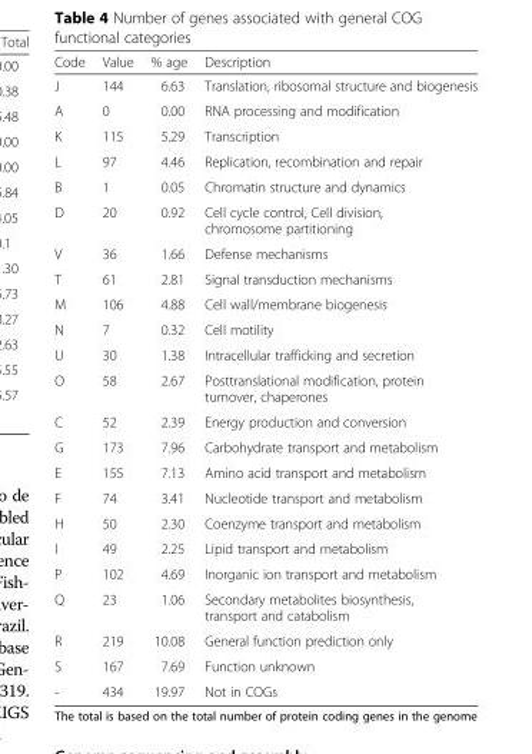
<table><thead><tr><td>Code</td><td>Value</td><td>% age</td><td>Description</td></tr></thead><tbody><tr><td>J</td><td>144</td><td>6.63</td><td>Translation, ribosomal structure and biogenesis</td></tr><tr><td>A</td><td>0</td><td>0.00</td><td>RNA processing and modification</td></tr><tr><td>K</td><td>115</td><td>5.29</td><td>Transcription</td></tr><tr><td>L</td><td>97</td><td>4.46</td><td>Replication, recombination and repair</td></tr><tr><td>B</td><td>1</td><td>0.05</td><td>Chromatin structure and dynamics</td></tr><tr><td>D</td><td>20</td><td>0.92</td><td>Cell cycle control, Cell division, chromosome partitioning</td></tr><tr><td>V</td><td>36</td><td>1.66</td><td>Defense mechanisms</td></tr><tr><td>T</td><td>61</td><td>2.81</td><td>Signal transduction mechanisms</td></tr><tr><td>M</td><td>106</td><td>4.88</td><td>Cell wall/membrane biogenesis</td></tr><tr><td>N</td><td>7</td><td>0.32</td><td>Cell motility</td></tr><tr><td>U</td><td>30</td><td>1.38</td><td>Intracellular trafficking and secretion</td></tr><tr><td>O</td><td>58</td><td>2.67</td><td>Posttranslational modification, protein turnover, chaperones</td></tr><tr><td>C</td><td>52</td><td>2.39</td><td>Energy production and conversion</td></tr><tr><td>G</td><td>173</td><td>7.96</td><td>Carbohydrate transport and metabolism</td></tr><tr><td>E</td><td>155</td><td>7.13</td><td>Amino acid transport and metabolism</td></tr><tr><td>F</td><td>74</td><td>3.41</td><td>Nucleotide transport and metabolism</td></tr><tr><td>H</td><td>50</td><td>2.30</td><td>Coenzyme transport and metabolism</td></tr><tr><td>I</td><td>49</td><td>2.25</td><td>Lipid transport and metabolism</td></tr><tr><td>P</td><td>102</td><td>4.69</td><td>Inorganic ion transport and metabolism</td></tr><tr><td>Q</td><td>23</td><td>1.06</td><td>Secondary metabolites biosynthesis, transport and catabolism</td></tr><tr><td>R</td><td>219</td><td>10.08</td><td>General function prediction only</td></tr><tr><td>S</td><td>167</td><td>7.69</td><td>Function unknown</td></tr><tr><td>-</td><td>434</td><td>19.97</td><td>Not in COGs</td></tr></tbody></table>